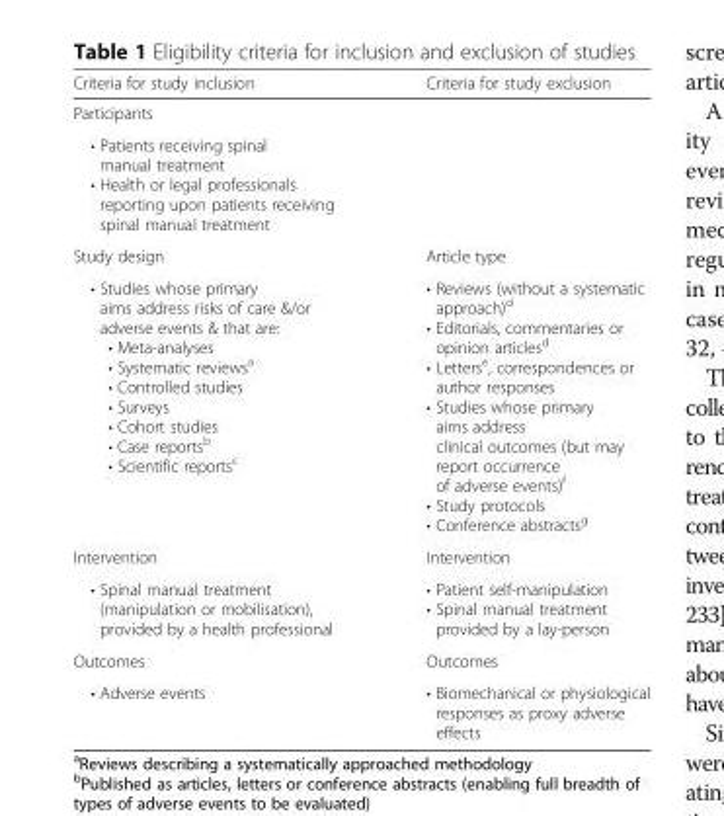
<table><thead><tr><td>Criteria for study inclusion</td><td>Criteria for study exclusion</td></tr></thead><tbody><tr><td colspan="2">Participants</td></tr><tr><td colspan="2">• Patients receiving spinal manual treatment • Health or legal professionals reporting upon patients receiving spinal manual treatment</td></tr><tr><td>Study design</td><td>Article type</td></tr><tr><td>• Studies whose primary aims address risks of care &amp;/or adverse events &amp; that are: • Meta-analyses • Systematic reviews<sup>a</sup> • Controlled studies • Surveys • Cohort studies • Case reports<sup>b</sup> • Scientific reports<sup>c</sup></td><td>• Reviews (without a systematic approach)<sup>d</sup> • Editorials, commentaries or opinion articles<sup>d</sup> • Letters<sup>e</sup>, correspondences or author responses • Studies whose primary aims address clinical outcomes (but may report occurrence of adverse events)<sup>f</sup> • Study protocols • Conference abstracts<sup>g</sup></td></tr><tr><td>Intervention</td><td>Intervention</td></tr><tr><td>• Spinal manual treatment (manipulation or mobilisation), provided by a health professional</td><td>• Patient self-manipulation • Spinal manual treatment provided by a lay-person</td></tr><tr><td>Outcomes</td><td>Outcomes</td></tr><tr><td>• Adverse events</td><td>• Biomechanical or physiological responses as proxy adverse effects</td></tr></tbody></table>